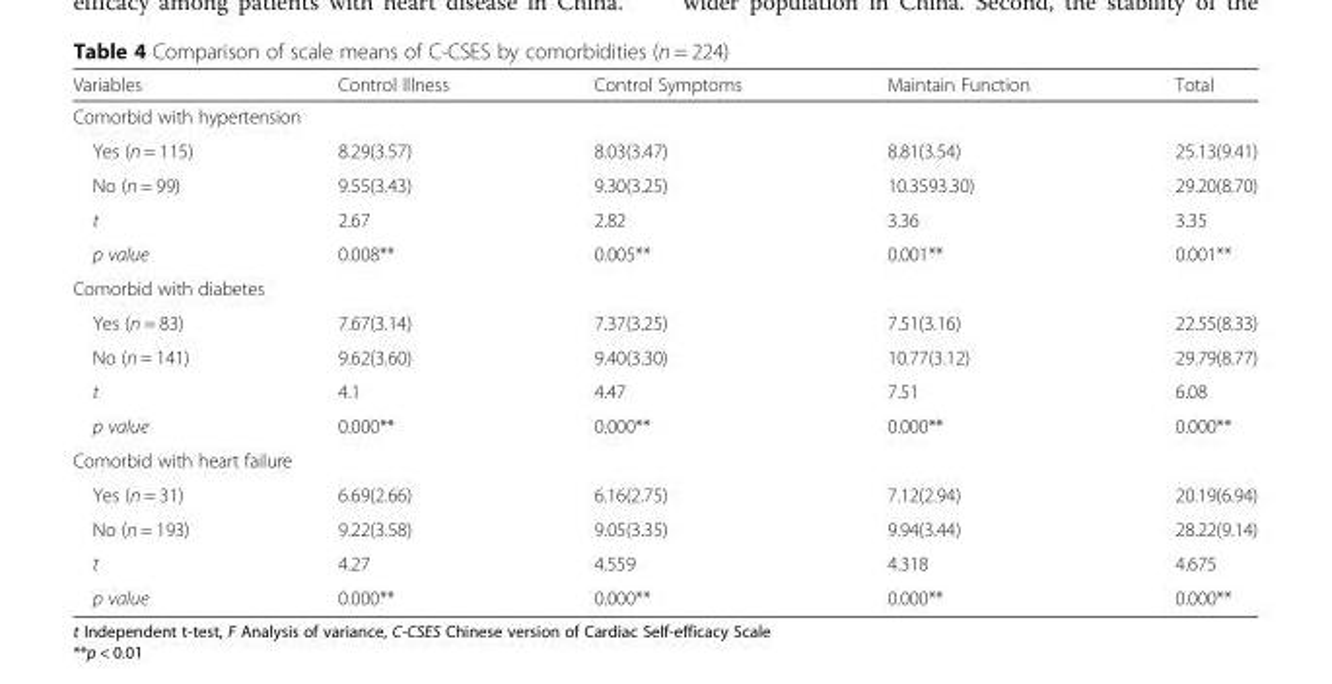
<table><thead><tr><td>Variables</td><td>Control Illness</td><td>Control Symptoms</td><td>Maintain Function</td><td>Total</td></tr></thead><tbody><tr><td colspan="5">Comorbid with hypertension</td></tr><tr><td>Yes (n = 115)</td><td>8.29(3.57)</td><td>8.03(3.47)</td><td>8.81(3.54)</td><td>25.13(9.41)</td></tr><tr><td>No (n = 99)</td><td>9.55(3.43)</td><td>9.30(3.25)</td><td>10.3593.30)</td><td>29.20(8.70)</td></tr><tr><td>t</td><td>2.67</td><td>2.82</td><td>3.36</td><td>3.35</td></tr><tr><td>p value</td><td>0.008**</td><td>0.005**</td><td>0.001**</td><td>0.001**</td></tr><tr><td colspan="5">Comorbid with diabetes</td></tr><tr><td>Yes (n = 83)</td><td>7.67(3.14)</td><td>7.37(3.25)</td><td>7.51(3.16)</td><td>22.55(8.33)</td></tr><tr><td>No (n = 141)</td><td>9.62(3.60)</td><td>9.40(3.30)</td><td>10.77(3.12)</td><td>29.79(8.77)</td></tr><tr><td>t</td><td>4.1</td><td>4.47</td><td>7.51</td><td>6.08</td></tr><tr><td>p value</td><td>0.000**</td><td>0.000**</td><td>0.000**</td><td>0.000**</td></tr><tr><td colspan="5">Comorbid with heart failure</td></tr><tr><td>Yes (n = 31)</td><td>6.69(2.66)</td><td>6.16(2.75)</td><td>7.12(2.94)</td><td>20.19(6.94)</td></tr><tr><td>No (n = 193)</td><td>9.22(3.58)</td><td>9.05(3.35)</td><td>9.94(3.44)</td><td>28.22(9.14)</td></tr><tr><td>t</td><td>4.27</td><td>4.559</td><td>4.318</td><td>4.675</td></tr><tr><td>p value</td><td>0.000**</td><td>0.000**</td><td>0.000**</td><td>0.000**</td></tr></tbody></table>